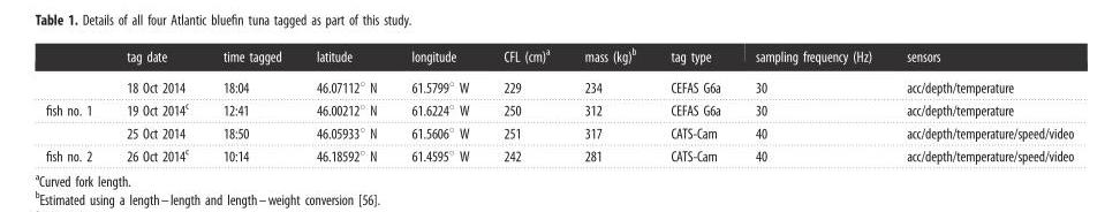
<table><thead><tr><td></td><td>tag date</td><td>time tagged</td><td>latitude</td><td>longitude</td><td>CFL (cm)<sup>a</sup></td><td>mass (kg)<sup>b</sup></td><td>tag type</td><td>sampling frequency (Hz)</td><td>sensors</td></tr></thead><tbody><tr><td></td><td>18 Oct 2014</td><td>18:04</td><td>46.07112° N</td><td>61.5799° W</td><td>229</td><td>234</td><td>CEFAS G6a</td><td>30</td><td>acc/depth/temperature</td></tr><tr><td rowspan="2">fish no. 1</td><td>19 Oct 2014<sup>c</sup></td><td>12:41</td><td>46.00212° N</td><td>61.6224° W</td><td>250</td><td>312</td><td>CEFAS G6a</td><td>30</td><td>acc/depth/temperature</td></tr><tr><td>25 Oct 2014</td><td>18:50</td><td>46.05933° N</td><td>61.5606° W</td><td>251</td><td>317</td><td>CATS-Cam</td><td>40</td><td>acc/depth/temperature/speed/video</td></tr><tr><td>fish no. 2</td><td>26 Oct 2014<sup>c</sup></td><td>10:14</td><td>46.18592° N</td><td>61.4595° W</td><td>242</td><td>281</td><td>CATS-Cam</td><td>40</td><td>acc/depth/temperature/speed/video</td></tr></tbody></table>